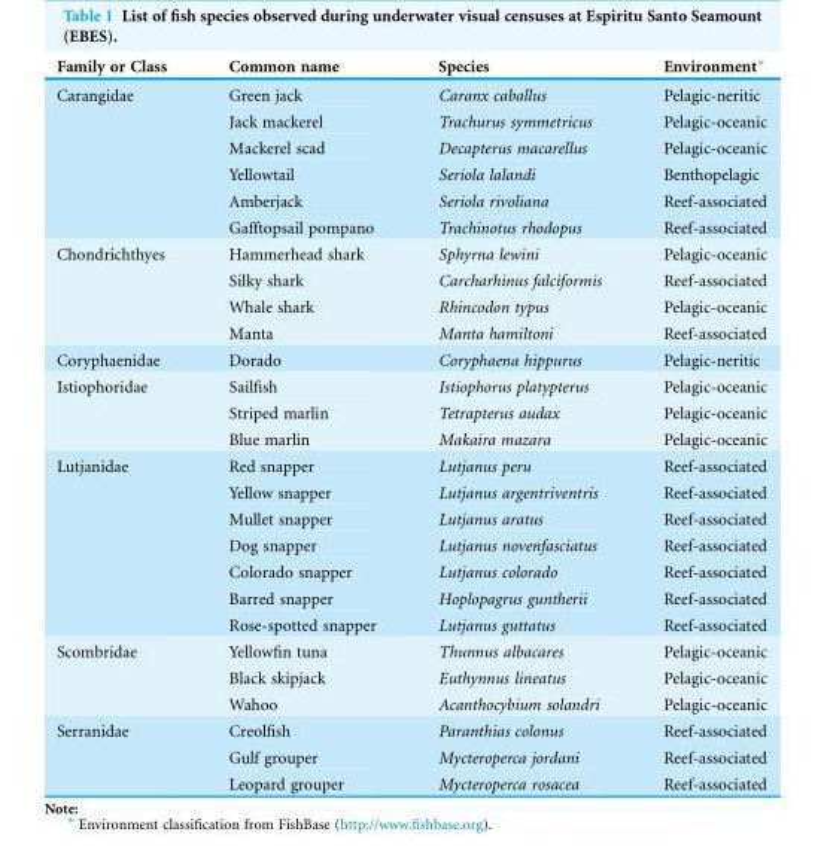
<table><thead><tr><td>Family or Class</td><td>Common name</td><td>Species</td><td>Environment*</td></tr></thead><tbody><tr><td rowspan="6">Carangidae</td><td>Green jack</td><td>Caranx caballus</td><td>Pelagic-neritic</td></tr><tr><td>Jack mackerel</td><td>Trachurus symmetricus</td><td>Pelagic-oceanic</td></tr><tr><td>Mackerel scad</td><td>Decapterus macarellus</td><td>Pelagic-oceanic</td></tr><tr><td>Yellowtail</td><td>Seriola lalandi</td><td>Benthopelagic</td></tr><tr><td>Amberjack</td><td>Seriola rivoliana</td><td>Reef-associated</td></tr><tr><td>Gafftopsail pompano</td><td>Trachinotus rhodopus</td><td>Reef-associated</td></tr><tr><td rowspan="4">Chondrichthyes</td><td>Hammerhead shark</td><td>Sphyrna lewini</td><td>Pelagic-oceanic</td></tr><tr><td>Silky shark</td><td>Carcharhinus falciformis</td><td>Reef-associated</td></tr><tr><td>Whale shark</td><td>Rhincodon typus</td><td>Pelagic-oceanic</td></tr><tr><td>Manta</td><td>Manta hamiltoni</td><td>Reef-associated</td></tr><tr><td>Coryphaenidae</td><td>Dorado</td><td>Coryphaena hippurus</td><td>Pelagic-neritic</td></tr><tr><td rowspan="3">Istiophoridae</td><td>Sailfish</td><td>Istiophorus platypterus</td><td>Pelagic-oceanic</td></tr><tr><td>Striped marlin</td><td>Tetrapterus audax</td><td>Pelagic-oceanic</td></tr><tr><td>Blue marlin</td><td>Makaira mazara</td><td>Pelagic-oceanic</td></tr><tr><td rowspan="7">Lutjanidae</td><td>Red snapper</td><td>Lutjanus peru</td><td>Reef-associated</td></tr><tr><td>Yellow snapper</td><td>Lutjanus argentriventris</td><td>Reef-associated</td></tr><tr><td>Mullet snapper</td><td>Lutjanus aratus</td><td>Reef-associated</td></tr><tr><td>Dog snapper</td><td>Lutjanus novenfasciatus</td><td>Reef-associated</td></tr><tr><td>Colorado snapper</td><td>Lutjanus colorado</td><td>Reef-associated</td></tr><tr><td>Barred snapper</td><td>Hoplopagrus guntherii</td><td>Reef-associated</td></tr><tr><td>Rose-spotted snapper</td><td>Lutjanus guttatus</td><td>Reef-associated</td></tr><tr><td rowspan="3">Scombridae</td><td>Yellowfin tuna</td><td>Thunnus albacares</td><td>Pelagic-oceanic</td></tr><tr><td>Black skipjack</td><td>Euthynnus lineatus</td><td>Pelagic-oceanic</td></tr><tr><td>Wahoo</td><td>Acanthocybium solandri</td><td>Pelagic-oceanic</td></tr><tr><td rowspan="3">Serranidae</td><td>Creolfish</td><td>Paranthias colonus</td><td>Reef-associated</td></tr><tr><td>Gulf grouper</td><td>Mycteroperca jordani</td><td>Reef-associated</td></tr><tr><td>Leopard grouper</td><td>Mycteroperca rosacea</td><td>Reef-associated</td></tr></tbody></table>